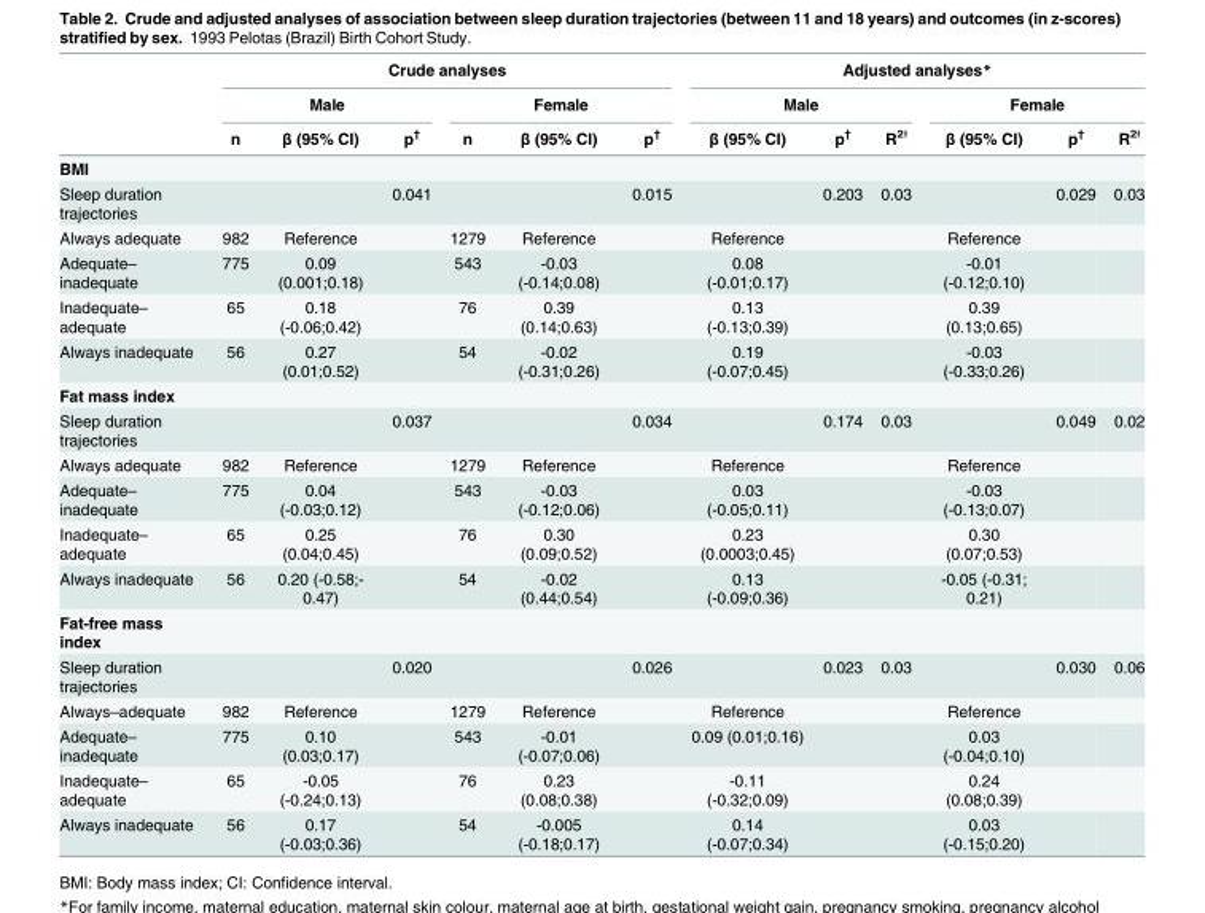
<table><thead><tr><td rowspan="3"></td><td colspan="6">Crude analyses</td><td colspan="6">Adjusted analyses*</td></tr><tr><td colspan="3">Male</td><td colspan="3">Female</td><td colspan="3">Male</td><td colspan="3">Female</td></tr><tr><td>n</td><td>β (95% CI)</td><td>p<sup>†</sup></td><td>n</td><td>β (95% CI)</td><td>p<sup>†</sup></td><td>β (95% CI)</td><td>p<sup>†</sup></td><td>R<sup>2Ɨ</sup></td><td>β (95% CI)</td><td>p<sup>†</sup></td><td>R<sup>2Ɨ</sup></td></tr></thead><tbody><tr><td colspan="13">BMI</td></tr><tr><td>Sleep duration trajectories</td><td></td><td></td><td>0.041</td><td></td><td></td><td>0.015</td><td></td><td>0.203</td><td>0.03</td><td></td><td>0.029</td><td>0.03</td></tr><tr><td>Always adequate</td><td>982</td><td>Reference</td><td></td><td>1279</td><td>Reference</td><td></td><td>Reference</td><td></td><td></td><td>Reference</td><td></td><td></td></tr><tr><td>Adequate– inadequate</td><td>775</td><td>0.09 (0.001;0.18)</td><td></td><td>543</td><td>-0.03 (-0.14;0.08)</td><td></td><td>0.08 (-0.01;0.17)</td><td></td><td></td><td>-0.01 (-0.12;0.10)</td><td></td><td></td></tr><tr><td>Inadequate– adequate</td><td>65</td><td>0.18 (-0.06;0.42)</td><td></td><td>76</td><td>0.39 (0.14;0.63)</td><td></td><td>0.13 (-0.13;0.39)</td><td></td><td></td><td>0.39 (0.13;0.65)</td><td></td><td></td></tr><tr><td>Always inadequate</td><td>56</td><td>0.27 (0.01;0.52)</td><td></td><td>54</td><td>-0.02 (-0.31;0.26)</td><td></td><td>0.19 (-0.07;0.45)</td><td></td><td></td><td>-0.03 (-0.33;0.26)</td><td></td><td></td></tr><tr><td colspan="13">Fat mass index</td></tr><tr><td>Sleep duration trajectories</td><td></td><td></td><td>0.037</td><td></td><td></td><td>0.034</td><td></td><td>0.174</td><td>0.03</td><td></td><td>0.049</td><td>0.02</td></tr><tr><td>Always adequate</td><td>982</td><td>Reference</td><td></td><td>1279</td><td>Reference</td><td></td><td>Reference</td><td></td><td></td><td>Reference</td><td></td><td></td></tr><tr><td>Adequate– inadequate</td><td>775</td><td>0.04 (-0.03;0.12)</td><td></td><td>543</td><td>-0.03 (-0.12;0.06)</td><td></td><td>0.03 (-0.05;0.11)</td><td></td><td></td><td>-0.03 (-0.13;0.07)</td><td></td><td></td></tr><tr><td>Inadequate– adequate</td><td>65</td><td>0.25 (0.04;0.45)</td><td></td><td>76</td><td>0.30 (0.09;0.52)</td><td></td><td>0.23 (0.0003;0.45)</td><td></td><td></td><td>0.30 (0.07;0.53)</td><td></td><td></td></tr><tr><td>Always inadequate</td><td>56</td><td>0.20 (-0.58;- 0.47)</td><td></td><td>54</td><td>-0.02 (0.44;0.54)</td><td></td><td>0.13 (-0.09;0.36)</td><td></td><td></td><td>-0.05 (-0.31; 0.21)</td><td></td><td></td></tr><tr><td colspan="13">Fat-free mass index</td></tr><tr><td>Sleep duration trajectories</td><td></td><td></td><td>0.020</td><td></td><td></td><td>0.026</td><td></td><td>0.023</td><td>0.03</td><td></td><td>0.030</td><td>0.06</td></tr><tr><td>Always–adequate</td><td>982</td><td>Reference</td><td></td><td>1279</td><td>Reference</td><td></td><td>Reference</td><td></td><td></td><td>Reference</td><td></td><td></td></tr><tr><td>Adequate– inadequate</td><td>775</td><td>0.10 (0.03;0.17)</td><td></td><td>543</td><td>-0.01 (-0.07;0.06)</td><td></td><td>0.09 (0.01;0.16)</td><td></td><td></td><td>0.03 (-0.04;0.10)</td><td></td><td></td></tr><tr><td>Inadequate– adequate</td><td>65</td><td>-0.05 (-0.24;0.13)</td><td></td><td>76</td><td>0.23 (0.08;0.38)</td><td></td><td>-0.11 (-0.32;0.09)</td><td></td><td></td><td>0.24 (0.08;0.39)</td><td></td><td></td></tr><tr><td>Always inadequate</td><td>56</td><td>0.17 (-0.03;0.36)</td><td></td><td>54</td><td>-0.005 (-0.18;0.17)</td><td></td><td>0.14 (-0.07;0.34)</td><td></td><td></td><td>0.03 (-0.15;0.20)</td><td></td><td></td></tr></tbody></table>